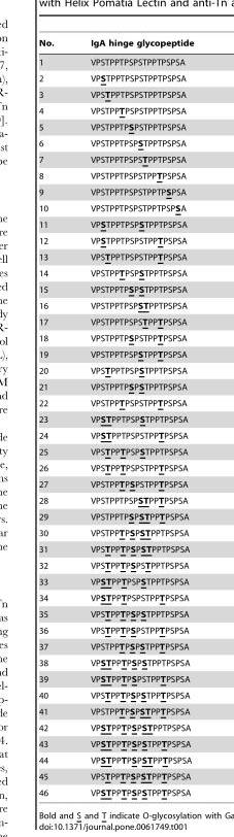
<table><thead><tr><td>No.</td><td>IgA hinge glycopeptide</td></tr></thead><tbody><tr><td>1</td><td>VPSTPPTPSPSTPPTPSPSA</td></tr><tr><td>2</td><td>VPSTPPTPSPSTPPTPSPSA</td></tr><tr><td>3</td><td>VPSTPPTPSPSTPPTPSPSA</td></tr><tr><td>4</td><td>VPSTPPTPSPSTPPTPSPSA</td></tr><tr><td>5</td><td>VPSTPPTPSPSTPPTPSPSA</td></tr><tr><td>6</td><td>VPSTPPTPSPSTPPTPSPSA</td></tr><tr><td>7</td><td>VPSTPPTPSPSTPPTPSPSA</td></tr><tr><td>8</td><td>VPSTPPTPSPSTPPTPSPSA</td></tr><tr><td>9</td><td>VPSTPPTPSPSTPPTPSPSA</td></tr><tr><td>10</td><td>VPSTPPTPSPSTPPTPSPSA</td></tr><tr><td>11</td><td>VPSTPPTPSPSTPPTPSPSA</td></tr><tr><td>12</td><td>VPSTPPTPSPSTPPTPSPSA</td></tr><tr><td>13</td><td>VPSTPPTPSPSTPPTPSPSA</td></tr><tr><td>14</td><td>VPSTPPTPSPSTPPTPSPSA</td></tr><tr><td>15</td><td>VPSTPPTPSPSTPPTPSPSA</td></tr><tr><td>16</td><td>VPSTPPTPSPSTPPTPSPSA</td></tr><tr><td>17</td><td>VPSTPPTPSPSTPPTPSPSA</td></tr><tr><td>18</td><td>VPSTPPTPSPSTPPTPSPSA</td></tr><tr><td>19</td><td>VPSTPPTPSPSTPPTPSPSA</td></tr><tr><td>20</td><td>VPSTPPTPSPSTPPTPSPSA</td></tr><tr><td>21</td><td>VPSTPPTPSPSTPPTPSPSA</td></tr><tr><td>22</td><td>VPSTPPTPSPSTPPTPSPSA</td></tr><tr><td>23</td><td>VPSTPPTPSPSTPPTPSPSA</td></tr><tr><td>24</td><td>VPSTPPTPSPSTPPTPSPSA</td></tr><tr><td>25</td><td>VPSTPPTPSPSTPPTPSPSA</td></tr><tr><td>26</td><td>VPSTPPTPSPSTPPTPSPSA</td></tr><tr><td>27</td><td>VPSTPPTPSPSTPPTPSPSA</td></tr><tr><td>28</td><td>VPSTPPTPSPSTPPTPSPSA</td></tr><tr><td>29</td><td>VPSTPPTPSPSTPPTPSPSA</td></tr><tr><td>30</td><td>VPSTPPTPSPSTPPTPSPSA</td></tr><tr><td>31</td><td>VPSTPPTPSPSTPPTPSPSA</td></tr><tr><td>32</td><td>VPSTPPTPSPSTPPTPSPSA</td></tr><tr><td>33</td><td>VPSTPPTPSPSTPPTPSPSA</td></tr><tr><td>34</td><td>VPSTPPTPSPSTPPTPSPSA</td></tr><tr><td>35</td><td>VPSTPPTPSPSTPPTPSPSA</td></tr><tr><td>36</td><td>VPSTPPTPSPSTPPTPSPSA</td></tr><tr><td>37</td><td>VPSTPPTPSPSTPPTPSPSA</td></tr><tr><td>38</td><td>VPSTPPTPSPSTPPTPSPSA</td></tr><tr><td>39</td><td>VPSTPPTPSPSTPPTPSPSA</td></tr><tr><td>40</td><td>VPSTPPTPSPSTPPTPSPSA</td></tr><tr><td>41</td><td>VPSTPPTPSPSTPPTPSPSA</td></tr><tr><td>42</td><td>VPSTPPTPSPSTPPTPSPSA</td></tr><tr><td>43</td><td>VPSTPPTPSPSTPPTPSPSA</td></tr><tr><td>44</td><td>VPSTPPTPSPSTPPTPSPSA</td></tr><tr><td>45</td><td>VPSTPPTPSPSTPPTPSPSA</td></tr><tr><td>46</td><td>VPSTPPTPSPSTPPTPSPSA</td></tr></tbody></table>